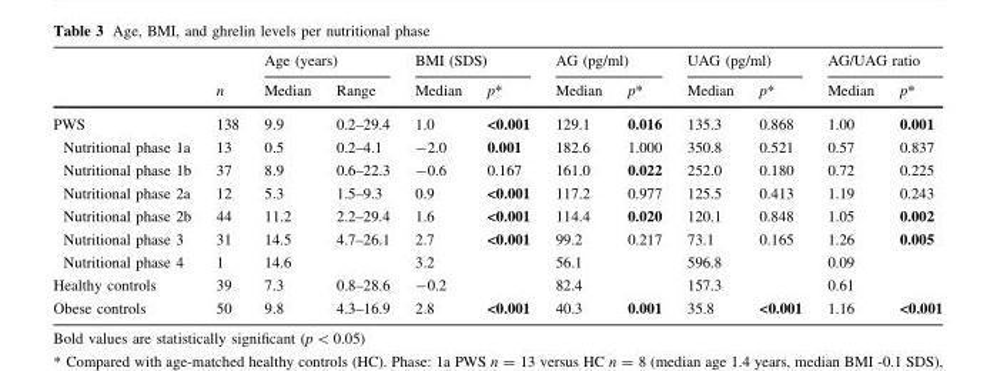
<table><thead><tr><td rowspan="2"></td><td rowspan="2">n</td><td colspan="2">Age (years)</td><td colspan="2">BMI (SDS)</td><td colspan="2">AG (pg/ml)</td><td colspan="2">UAG (pg/ml)</td><td colspan="2">AG/UAG ratio</td></tr><tr><td>Median</td><td>Range</td><td>Median</td><td>p*</td><td>Median</td><td>p*</td><td>Median</td><td>p*</td><td>Median</td><td>p*</td></tr></thead><tbody><tr><td>PWS</td><td>138</td><td>9.9</td><td>0.2–29.4</td><td>1.0</td><td>&lt;0.001</td><td>129.1</td><td>0.016</td><td>135.3</td><td>0.868</td><td>1.00</td><td>0.001</td></tr><tr><td>Nutritional phase 1a</td><td>13</td><td>0.5</td><td>0.2–4.1</td><td>-2.0</td><td>0.001</td><td>182.6</td><td>1.000</td><td>350.8</td><td>0.521</td><td>0.57</td><td>0.837</td></tr><tr><td>Nutritional phase 1b</td><td>37</td><td>8.9</td><td>0.6–22.3</td><td>-0.6</td><td>0.167</td><td>161.0</td><td>0.022</td><td>252.0</td><td>0.180</td><td>0.72</td><td>0.225</td></tr><tr><td>Nutritional phase 2a</td><td>12</td><td>5.3</td><td>1.5–9.3</td><td>0.9</td><td>&lt;0.001</td><td>117.2</td><td>0.977</td><td>125.5</td><td>0.413</td><td>1.19</td><td>0.243</td></tr><tr><td>Nutritional phase 2b</td><td>44</td><td>11.2</td><td>2.2–29.4</td><td>1.6</td><td>&lt;0.001</td><td>114.4</td><td>0.020</td><td>120.1</td><td>0.848</td><td>1.05</td><td>0.002</td></tr><tr><td>Nutritional phase 3</td><td>31</td><td>14.5</td><td>4.7–26.1</td><td>2.7</td><td>&lt;0.001</td><td>99.2</td><td>0.217</td><td>73.1</td><td>0.165</td><td>1.26</td><td>0.005</td></tr><tr><td>Nutritional phase 4</td><td>1</td><td>14.6</td><td></td><td>3.2</td><td></td><td>56.1</td><td></td><td>596.8</td><td></td><td>0.09</td><td></td></tr><tr><td>Healthy controls</td><td>39</td><td>7.3</td><td>0.8–28.6</td><td>-0.2</td><td></td><td>82.4</td><td></td><td>157.3</td><td></td><td>0.61</td><td></td></tr><tr><td>Obese controls</td><td>50</td><td>9.8</td><td>4.3–16.9</td><td>2.8</td><td>&lt;0.001</td><td>40.3</td><td>0.001</td><td>35.8</td><td>&lt;0.001</td><td>1.16</td><td>&lt;0.001</td></tr></tbody></table>